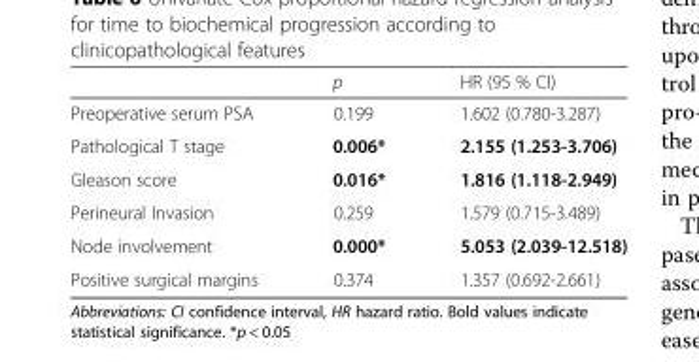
<table><thead><tr><td></td><td>p</td><td>HR (95 % CI)</td></tr></thead><tbody><tr><td>Preoperative serum PSA</td><td>0.199</td><td>1.602 (0.780-3.287)</td></tr><tr><td>Pathological T stage</td><td>0.006*</td><td>2.155 (1.253-3.706)</td></tr><tr><td>Gleason score</td><td>0.016*</td><td>1.816 (1.118-2.949)</td></tr><tr><td>Perineural Invasion</td><td>0.259</td><td>1.579 (0.715-3.489)</td></tr><tr><td>Node involvement</td><td>0.000*</td><td>5.053 (2.039-12.518)</td></tr><tr><td>Positive surgical margins</td><td>0.374</td><td>1.357 (0.692-2.661)</td></tr></tbody></table>